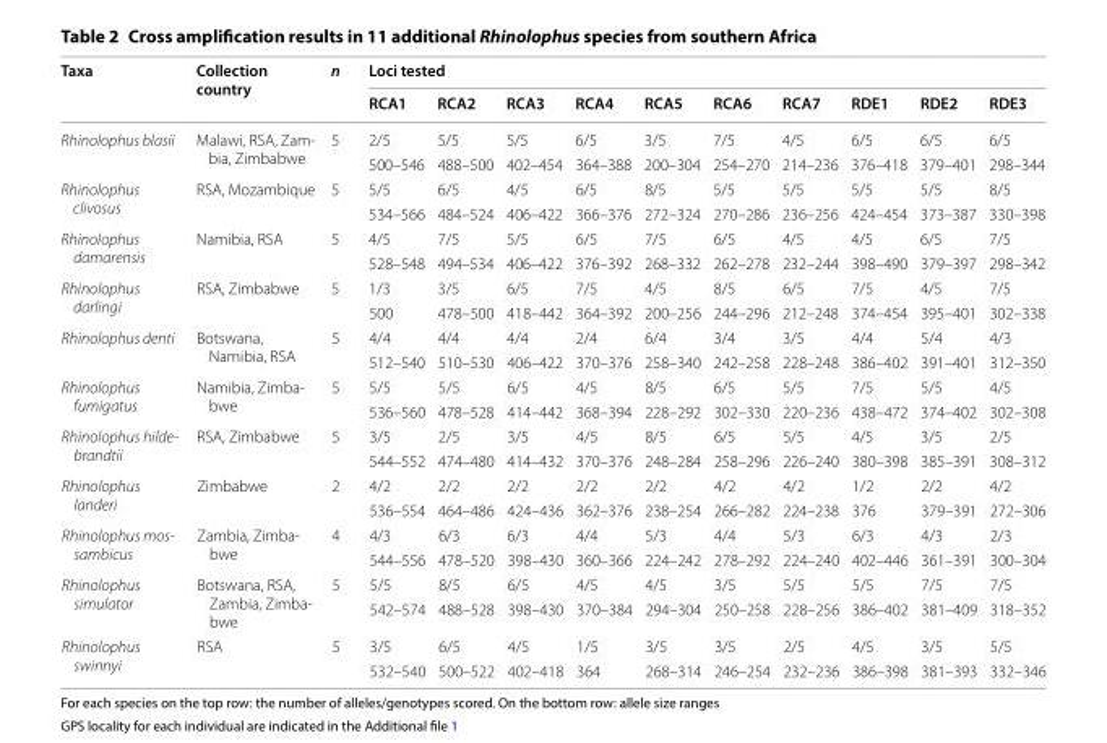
<table><thead><tr><td rowspan="2">Taxa</td><td rowspan="2">Collection country</td><td rowspan="2">n</td><td colspan="10">Loci tested</td></tr><tr><td>RCA1</td><td>RCA2</td><td>RCA3</td><td>RCA4</td><td>RCA5</td><td>RCA6</td><td>RCA7</td><td>RDE1</td><td>RDE2</td><td>RDE3</td></tr></thead><tbody><tr><td rowspan="2">Rhinolophus blasii</td><td rowspan="2">Malawi, RSA, Zam- bia, Zimbabwe</td><td>5</td><td>2/5</td><td>5/5</td><td>5/5</td><td>6/5</td><td>3/5</td><td>7/5</td><td>4/5</td><td>6/5</td><td>6/5</td><td>6/5</td></tr><tr><td></td><td>500–546</td><td>488–500</td><td>402–454</td><td>364–388</td><td>200–304</td><td>254–270</td><td>214–236</td><td>376–418</td><td>379–401</td><td>298–344</td></tr><tr><td rowspan="2">Rhinolophus clivosus</td><td rowspan="2">RSA, Mozambique</td><td>5</td><td>5/5</td><td>6/5</td><td>4/5</td><td>6/5</td><td>8/5</td><td>5/5</td><td>5/5</td><td>5/5</td><td>5/5</td><td>8/5</td></tr><tr><td></td><td>534–566</td><td>484–524</td><td>406–422</td><td>366–376</td><td>272–324</td><td>270–286</td><td>236–256</td><td>424–454</td><td>373–387</td><td>330–398</td></tr><tr><td rowspan="2">Rhinolophus damarensis</td><td rowspan="2">Namibia, RSA</td><td>5</td><td>4/5</td><td>7/5</td><td>5/5</td><td>6/5</td><td>7/5</td><td>6/5</td><td>4/5</td><td>4/5</td><td>6/5</td><td>7/5</td></tr><tr><td></td><td>528–548</td><td>494–534</td><td>406–422</td><td>376–392</td><td>268–332</td><td>262–278</td><td>232–244</td><td>398–490</td><td>379–397</td><td>298–342</td></tr><tr><td rowspan="2">Rhinolophus darlingi</td><td rowspan="2">RSA, Zimbabwe</td><td>5</td><td>1/3</td><td>3/5</td><td>6/5</td><td>7/5</td><td>4/5</td><td>8/5</td><td>6/5</td><td>7/5</td><td>4/5</td><td>7/5</td></tr><tr><td></td><td>500</td><td>478–500</td><td>418–442</td><td>364–392</td><td>200–256</td><td>244–296</td><td>212–248</td><td>374–454</td><td>395–401</td><td>302–338</td></tr><tr><td rowspan="2">Rhinolophus denti</td><td rowspan="2">Botswana, Namibia, RSA</td><td>5</td><td>4/4</td><td>4/4</td><td>4/4</td><td>2/4</td><td>6/4</td><td>3/4</td><td>3/5</td><td>4/4</td><td>5/4</td><td>4/3</td></tr><tr><td></td><td>512–540</td><td>510–530</td><td>406–422</td><td>370–376</td><td>258–340</td><td>242–258</td><td>228–248</td><td>386–402</td><td>391–401</td><td>312–350</td></tr><tr><td rowspan="2">Rhinolophus fumigatus</td><td rowspan="2">Namibia, Zimba- bwe</td><td>5</td><td>5/5</td><td>5/5</td><td>6/5</td><td>4/5</td><td>8/5</td><td>6/5</td><td>5/5</td><td>7/5</td><td>5/5</td><td>4/5</td></tr><tr><td></td><td>536–560</td><td>478–528</td><td>414–442</td><td>368–394</td><td>228–292</td><td>302–330</td><td>220–236</td><td>438–472</td><td>374–402</td><td>302–308</td></tr><tr><td rowspan="2">Rhinolophus hilde- brandtii</td><td rowspan="2">RSA, Zimbabwe</td><td>5</td><td>3/5</td><td>2/5</td><td>3/5</td><td>4/5</td><td>8/5</td><td>6/5</td><td>5/5</td><td>4/5</td><td>3/5</td><td>2/5</td></tr><tr><td></td><td>544–552</td><td>474–480</td><td>414–432</td><td>370–376</td><td>248–284</td><td>258–296</td><td>226–240</td><td>380–398</td><td>385–391</td><td>308–312</td></tr><tr><td rowspan="2">Rhinolophus landeri</td><td rowspan="2">Zimbabwe</td><td>2</td><td>4/2</td><td>2/2</td><td>2/2</td><td>2/2</td><td>2/2</td><td>4/2</td><td>4/2</td><td>1/2</td><td>2/2</td><td>4/2</td></tr><tr><td></td><td>536–554</td><td>464–486</td><td>424–436</td><td>362–376</td><td>238–254</td><td>266–282</td><td>224–238</td><td>376</td><td>379–391</td><td>272–306</td></tr><tr><td rowspan="2">Rhinolophus mos- sambicus</td><td rowspan="2">Zambia, Zimba- bwe</td><td>4</td><td>4/3</td><td>6/3</td><td>6/3</td><td>4/4</td><td>5/3</td><td>4/4</td><td>5/3</td><td>6/3</td><td>4/3</td><td>2/3</td></tr><tr><td></td><td>544–556</td><td>478–520</td><td>398–430</td><td>360–366</td><td>224–242</td><td>278–292</td><td>224–240</td><td>402–446</td><td>361–391</td><td>300–304</td></tr><tr><td rowspan="2">Rhinolophus simulator</td><td rowspan="2">Botswana, RSA, Zambia, Zimba- bwe</td><td>5</td><td>5/5</td><td>8/5</td><td>6/5</td><td>4/5</td><td>4/5</td><td>3/5</td><td>5/5</td><td>5/5</td><td>7/5</td><td>7/5</td></tr><tr><td></td><td>542–574</td><td>488–528</td><td>398–430</td><td>370–384</td><td>294–304</td><td>250–258</td><td>228–256</td><td>386–402</td><td>381–409</td><td>318–352</td></tr><tr><td rowspan="2">Rhinolophus swinnyi</td><td rowspan="2">RSA</td><td>5</td><td>3/5</td><td>6/5</td><td>4/5</td><td>1/5</td><td>3/5</td><td>3/5</td><td>2/5</td><td>4/5</td><td>3/5</td><td>5/5</td></tr><tr><td></td><td>532–540</td><td>500–522</td><td>402–418</td><td>364</td><td>268–314</td><td>246–254</td><td>232–236</td><td>386–398</td><td>381–393</td><td>332–346</td></tr></tbody></table>